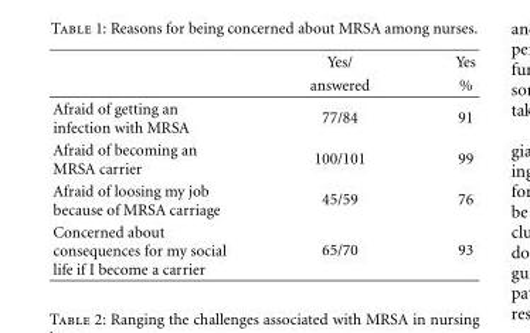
<table><thead><tr><td rowspan="2"></td><td rowspan="2">Yes/ answered</td><td rowspan="2">Yes %</td></tr><tr></tr></thead><tbody><tr><td>Afraid of getting an infection with MRSA</td><td>77/84</td><td>91</td></tr><tr><td>Afraid of becoming an MRSA carrier</td><td>100/101</td><td>99</td></tr><tr><td>Afraid of loosing my job because of MRSA carriage</td><td>45/59</td><td>76</td></tr><tr><td>Concerned about consequences for my social life if I become a carrier</td><td>65/70</td><td>93</td></tr></tbody></table>